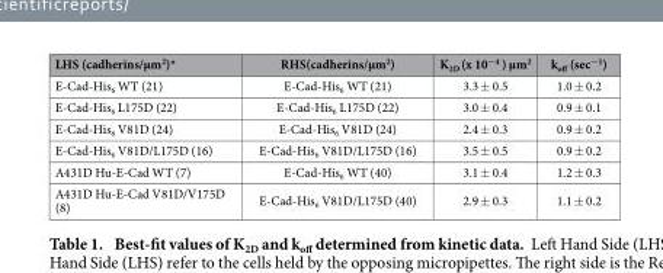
<table><thead><tr><td>LHS (cadherins/μm<sup>2</sup>)*</td><td>RHS(cadherins/μm<sup>2</sup>)</td><td>K<sub>2D</sub> (x 10<sup>−4</sup> ) μm<sup>2</sup></td><td>k<sub>off</sub> (sec<sup>−1</sup>)</td></tr></thead><tbody><tr><td>E-Cad-His<sub>6</sub> WT (21)</td><td>E-Cad-His<sub>6</sub> WT (21)</td><td>3.3 ± 0.5</td><td>1.0 ± 0.2</td></tr><tr><td>E-Cad-His<sub>6</sub> L175D (22)</td><td>E-Cad-His<sub>6</sub> L175D (22)</td><td>3.0 ± 0.4</td><td>0.9 ± 0.1</td></tr><tr><td>E-Cad-His<sub>6</sub> V81D (24)</td><td>E-Cad-His<sub>6</sub> V81D (24)</td><td>2.4 ± 0.3</td><td>0.9 ± 0.2</td></tr><tr><td>E-Cad-His<sub>6</sub> V81D/L175D (16)</td><td>E-Cad-His<sub>6</sub> V81D/L175D (16)</td><td>3.5 ± 0.5</td><td>0.9 ± 0.2</td></tr><tr><td>A431D Hu-E-Cad WT (7)</td><td>E-Cad-His<sub>6</sub> WT (40)</td><td>3.1 ± 0.4</td><td>1.2 ± 0.3</td></tr><tr><td>A431D Hu-E-Cad V81D/V175D (8)</td><td>E-Cad-His<sub>6</sub> V81D/L175D (40)</td><td>2.9 ± 0.3</td><td>1.1 ± 0.2</td></tr></tbody></table>